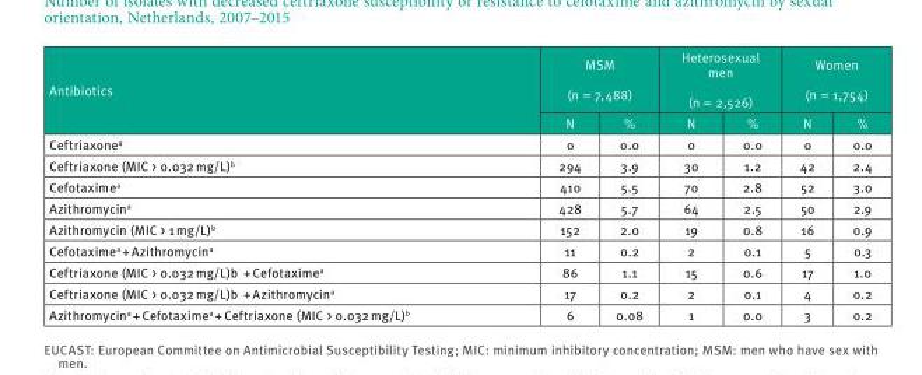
<table><thead><tr><td rowspan="2">Antibiotics</td><td colspan="2">MSM (n = 7,488)</td><td colspan="2">Heterosexual men (n = 2,526)</td><td colspan="2">Women (n = 1,754)</td></tr><tr><td>N</td><td>%</td><td>N</td><td>%</td><td>N</td><td>%</td></tr></thead><tbody><tr><td>Ceftriaxone<sup>a</sup></td><td>0</td><td>0.0</td><td>0</td><td>0.0</td><td>0</td><td>0.0</td></tr><tr><td>Ceftriaxone (MIC &gt; 0.032 mg/L)<sup>b</sup></td><td>294</td><td>3.9</td><td>30</td><td>1.2</td><td>42</td><td>2.4</td></tr><tr><td>Cefotaxime<sup>a</sup></td><td>410</td><td>5.5</td><td>70</td><td>2.8</td><td>52</td><td>3.0</td></tr><tr><td>Azithromycin<sup>a</sup></td><td>428</td><td>5.7</td><td>64</td><td>2.5</td><td>50</td><td>2.9</td></tr><tr><td>Azithromycin (MIC &gt; 1 mg/L)<sup>b</sup></td><td>152</td><td>2.0</td><td>19</td><td>0.8</td><td>16</td><td>0.9</td></tr><tr><td>Cefotaxime<sup>a</sup> + Azithromycin<sup>a</sup></td><td>11</td><td>0.2</td><td>2</td><td>0.1</td><td>5</td><td>0.3</td></tr><tr><td>Ceftriaxone (MIC &gt; 0.032 mg/L)<sup>b</sup> + Cefotaxime<sup>a</sup></td><td>86</td><td>1.1</td><td>15</td><td>0.6</td><td>17</td><td>1.0</td></tr><tr><td>Ceftriaxone (MIC &gt; 0.032 mg/L)<sup>b</sup> + Azithromycin<sup>a</sup></td><td>17</td><td>0.2</td><td>2</td><td>0.1</td><td>4</td><td>0.2</td></tr><tr><td>Azithromycin<sup>a</sup> + Cefotaxime<sup>a</sup> + Ceftriaxone (MIC &gt; 0.032 mg/L)<sup>b</sup></td><td>6</td><td>0.08</td><td>1</td><td>0.0</td><td>3</td><td>0.2</td></tr></tbody></table>